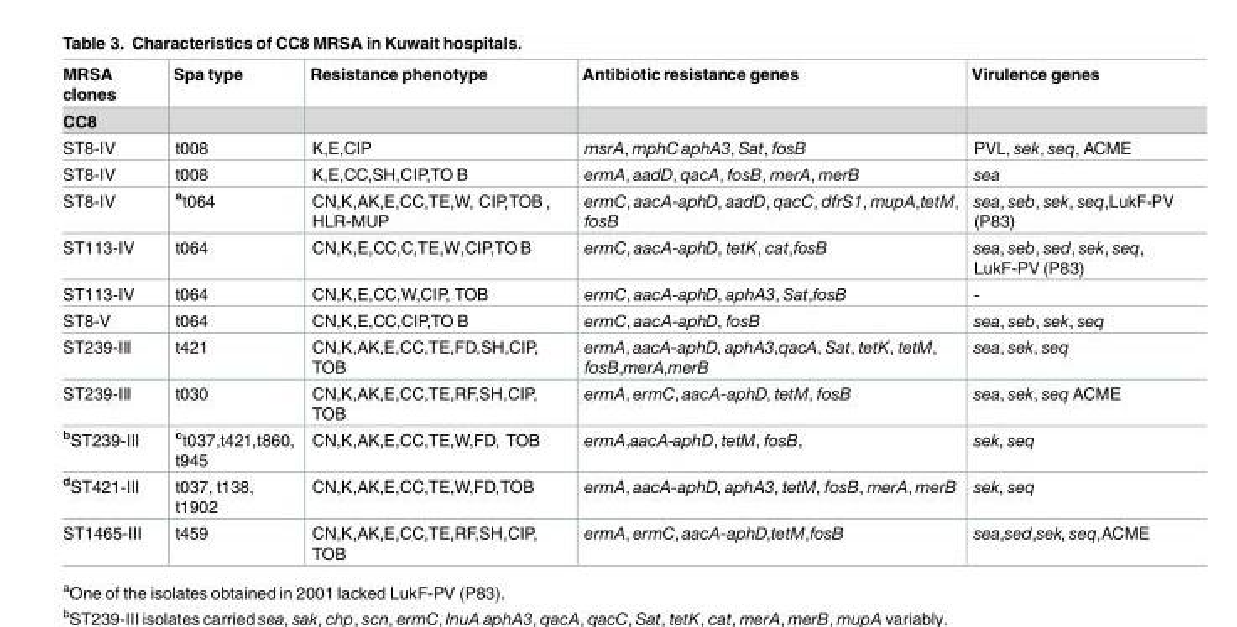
<table><thead><tr><td>MRSA clones</td><td>Spa type</td><td>Resistance phenotype</td><td>Antibiotic resistance genes</td><td>Virulence genes</td></tr></thead><tbody><tr><td colspan="5">CC8</td></tr><tr><td>ST8-IV</td><td>t008</td><td>K,E,CIP</td><td>msrA, mphC aphA3, Sat, fosB</td><td>PVL, sek, seq, ACME</td></tr><tr><td>ST8-IV</td><td>t008</td><td>K,E,CC,SH,CIP,TO B</td><td>ermA, aadD, qacA, fosB, merA, merB</td><td>sea</td></tr><tr><td>ST8-IV</td><td><sup>a</sup>t064</td><td>CN,K,AK,E,CC,TE,W, CIP,TOB , HLR-MUP</td><td>ermC, aacA-aphD, aadD, qacC, dfrS1, mupA,tetM, fosB</td><td>sea, seb, sek, seq,LukF-PV (P83)</td></tr><tr><td>ST113-IV</td><td>t064</td><td>CN,K,E,CC,C,TE,W,CIP,TO B</td><td>ermC, aacA-aphD, tetK, cat,fosB</td><td>sea, seb, sed, sek, seq, LukF-PV (P83)</td></tr><tr><td>ST113-IV</td><td>t064</td><td>CN,K,E,CC,W,CIP, TOB</td><td>ermC, aacA-aphD, aphA3, Sat,fosB</td><td>-</td></tr><tr><td>ST8-V</td><td>t064</td><td>CN,K,E,CC,CIP,TO B</td><td>ermC, aacA-aphD, fosB</td><td>sea, seb, sek, seq</td></tr><tr><td>ST239-III</td><td>t421</td><td>CN,K,AK,E,CC,TE,FD,SH,CIP, TOB</td><td>ermA, aacA-aphD, aphA3,qacA, Sat, tetK, tetM, fosB,merA,merB</td><td>sea, sek, seq</td></tr><tr><td>ST239-III</td><td>t030</td><td>CN,K,AK,E,CC,TE,RF,SH,CIP, TOB</td><td>ermA, ermC, aacA-aphD, tetM, fosB</td><td>sea, sek, seq ACME</td></tr><tr><td><sup>b</sup>ST239-III</td><td><sup>c</sup>t037,t421,t860, t945</td><td>CN,K,AK,E,CC,TE,W,FD, TOB</td><td>ermA,aacA-aphD, tetM, fosB,</td><td>sek, seq</td></tr><tr><td><sup>d</sup>ST421-III</td><td>t037, t138, t1902</td><td>CN,K,AK,E,CC,TE,W,FD,TOB</td><td>ermA, aacA-aphD, aphA3, tetM, fosB, merA, merB</td><td>sek, seq</td></tr><tr><td>ST1465-III</td><td>t459</td><td>CN,K,AK,E,CC,TE,RF,SH,CIP, TOB</td><td>ermA, ermC, aacA-aphD,tetM,fosB</td><td>sea,sed,sek, seq,ACME</td></tr></tbody></table>